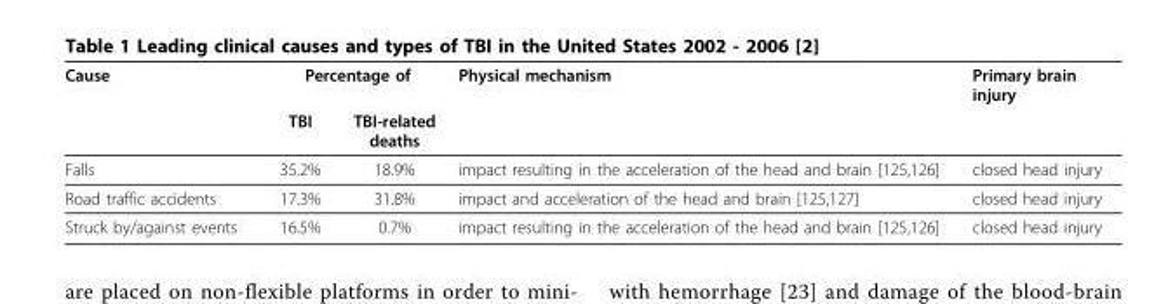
<table><thead><tr><td rowspan="2">Cause</td><td colspan="2">Percentage of</td><td rowspan="2">Physical mechanism</td><td rowspan="2">Primary brain injury</td></tr><tr><td>TBI</td><td>TBI-related deaths</td></tr></thead><tbody><tr><td>Falls</td><td>35.2%</td><td>18.9%</td><td>impact resulting in the acceleration of the head and brain [125,126]</td><td>closed head injury</td></tr><tr><td>Road traffic accidents</td><td>17.3%</td><td>31.8%</td><td>impact and acceleration of the head and brain [125,127]</td><td>closed head injury</td></tr><tr><td>Struck by/against events</td><td>16.5%</td><td>0.7%</td><td>impact resulting in the acceleration of the head and brain [125,126]</td><td>closed head injury</td></tr></tbody></table>